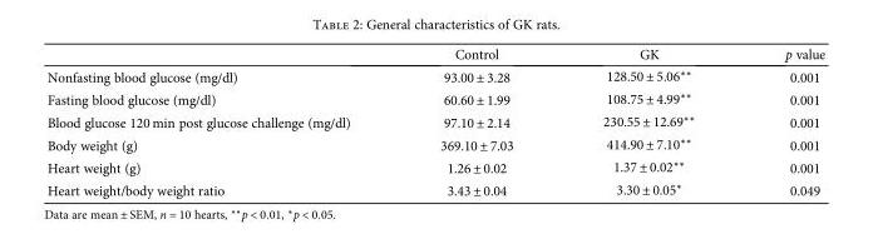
<table><thead><tr><td></td><td>Control</td><td>GK</td><td>p value</td></tr></thead><tbody><tr><td>Nonfasting blood glucose (mg/dl)</td><td>93.00 ± 3.28</td><td>128.50 ± 5.06∗∗</td><td>0.001</td></tr><tr><td>Fasting blood glucose (mg/dl)</td><td>60.60 ± 1.99</td><td>108.75 ± 4.99∗∗</td><td>0.001</td></tr><tr><td>Blood glucose 120 min post glucose challenge (mg/dl)</td><td>97.10 ± 2.14</td><td>230.55 ± 12.69∗∗</td><td>0.001</td></tr><tr><td>Body weight (g)</td><td>369.10 ± 7.03</td><td>414.90 ± 7.10∗∗</td><td>0.001</td></tr><tr><td>Heart weight (g)</td><td>1.26 ± 0.02</td><td>1.37 ± 0.02∗∗</td><td>0.001</td></tr><tr><td>Heart weight/body weight ratio</td><td>3.43 ± 0.04</td><td>3.30 ± 0.05∗</td><td>0.049</td></tr></tbody></table>